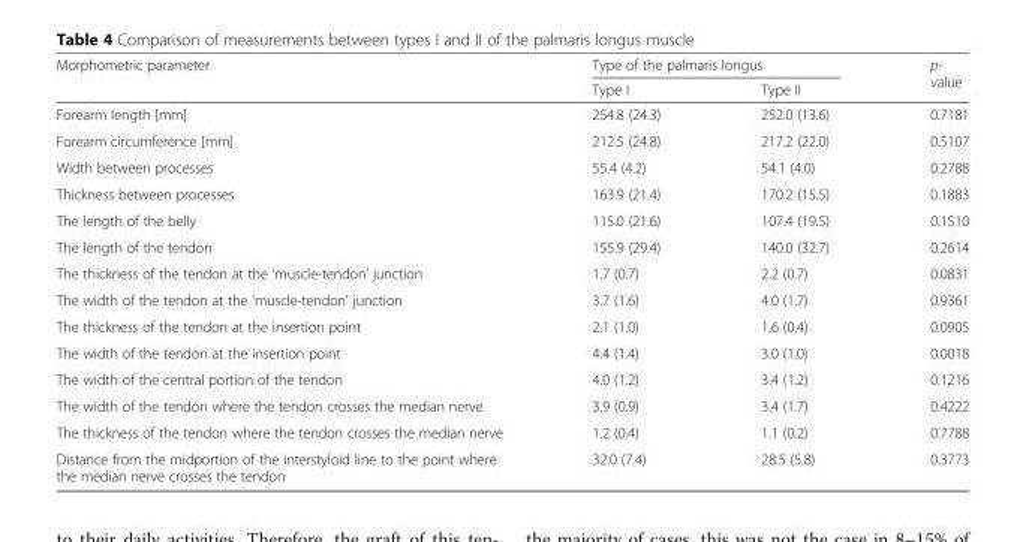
<table><thead><tr><td rowspan="2">Morphometric parameter</td><td colspan="2">Type of the palmaris longus</td><td rowspan="2">p- value</td></tr><tr><td>Type I</td><td>Type II</td></tr></thead><tbody><tr><td>Forearm length [mm]</td><td>254.8 (24.3)</td><td>252.0 (13.6)</td><td>0.7181</td></tr><tr><td>Forearm circumference [mm]</td><td>212.5 (24.8)</td><td>217.2 (22.0)</td><td>0.5107</td></tr><tr><td>Width between processes</td><td>55.4 (4.2)</td><td>54.1 (4.0)</td><td>0.2788</td></tr><tr><td>Thickness between processes</td><td>163.9 (21.4)</td><td>170.2 (15.5)</td><td>0.1883</td></tr><tr><td>The length of the belly</td><td>115.0 (21.6)</td><td>107.4 (19.5)</td><td>0.1510</td></tr><tr><td>The length of the tendon</td><td>155.9 (29.4)</td><td>140.0 (32.7)</td><td>0.2614</td></tr><tr><td>The thickness of the tendon at the ‘muscle-tendon’ junction</td><td>1.7 (0.7)</td><td>2.2 (0.7)</td><td>0.0831</td></tr><tr><td>The width of the tendon at the ‘muscle-tendon’ junction</td><td>3.7 (1.6)</td><td>4.0 (1.7)</td><td>0.9361</td></tr><tr><td>The thickness of the tendon at the insertion point</td><td>2.1 (1.0)</td><td>1.6 (0.4)</td><td>0.0905</td></tr><tr><td>The width of the tendon at the insertion point</td><td>4.4 (1.4)</td><td>3.0 (1.0)</td><td>0.0018</td></tr><tr><td>The width of the central portion of the tendon</td><td>4.0 (1.2)</td><td>3.4 (1.2)</td><td>0.1216</td></tr><tr><td>The width of the tendon where the tendon crosses the median nerve</td><td>3.9 (0.9)</td><td>3.4 (1.7)</td><td>0.4222</td></tr><tr><td>The thickness of the tendon where the tendon crosses the median nerve</td><td>1.2 (0.4)</td><td>1.1 (0.2)</td><td>0.7788</td></tr><tr><td>Distance from the midportion of the interstyloid line to the point where the median nerve crosses the tendon</td><td>32.0 (7.4)</td><td>28.5 (5.8)</td><td>0.3773</td></tr></tbody></table>